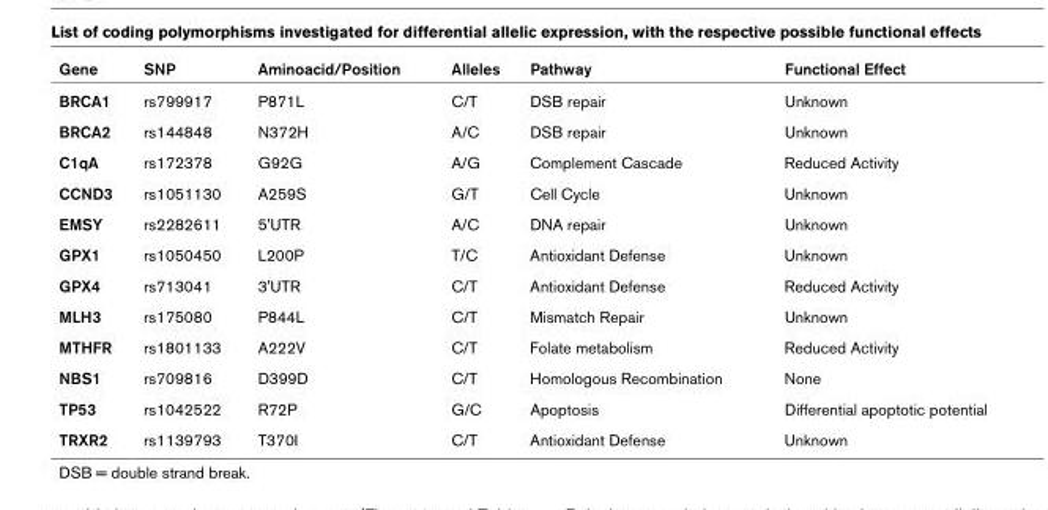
<table><thead><tr><td>Gene</td><td>SNP</td><td>Aminoacid/Position</td><td>Alleles</td><td>Pathway</td><td>Functional Effect</td></tr></thead><tbody><tr><td>BRCA1</td><td>rs799917</td><td>P871L</td><td>C/T</td><td>DSB repair</td><td>Unknown</td></tr><tr><td>BRCA2</td><td>rs144848</td><td>N372H</td><td>A/C</td><td>DSB repair</td><td>Unknown</td></tr><tr><td>C1qA</td><td>rs172378</td><td>G92G</td><td>A/G</td><td>Complement Cascade</td><td>Reduced Activity</td></tr><tr><td>CCND3</td><td>rs1051130</td><td>A259S</td><td>G/T</td><td>Cell Cycle</td><td>Unknown</td></tr><tr><td>EMSY</td><td>rs2282611</td><td>5&#x27;UTR</td><td>A/C</td><td>DNA repair</td><td>Unknown</td></tr><tr><td>GPX1</td><td>rs1050450</td><td>L200P</td><td>T/C</td><td>Antioxidant Defense</td><td>Unknown</td></tr><tr><td>GPX4</td><td>rs713041</td><td>3&#x27;UTR</td><td>C/T</td><td>Antioxidant Defense</td><td>Reduced Activity</td></tr><tr><td>MLH3</td><td>rs175080</td><td>P844L</td><td>C/T</td><td>Mismatch Repair</td><td>Unknown</td></tr><tr><td>MTHFR</td><td>rs1801133</td><td>A222V</td><td>C/T</td><td>Folate metabolism</td><td>Reduced Activity</td></tr><tr><td>NBS1</td><td>rs709816</td><td>D399D</td><td>C/T</td><td>Homologous Recombination</td><td>None</td></tr><tr><td>TP53</td><td>rs1042522</td><td>R72P</td><td>G/C</td><td>Apoptosis</td><td>Differential apoptotic potential</td></tr><tr><td>TRXR2</td><td>rs1139793</td><td>T370I</td><td>C/T</td><td>Antioxidant Defense</td><td>Unknown</td></tr></tbody></table>